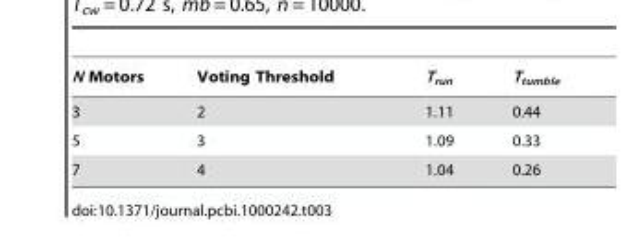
<table><thead><tr><td>N Motors</td><td>Voting Threshold</td><td>T<sub>run</sub></td><td>T<sub>tumble</sub></td></tr></thead><tbody><tr><td>3</td><td>2</td><td>1.11</td><td>0.44</td></tr><tr><td>5</td><td>3</td><td>1.09</td><td>0.33</td></tr><tr><td>7</td><td>4</td><td>1.04</td><td>0.26</td></tr></tbody></table>